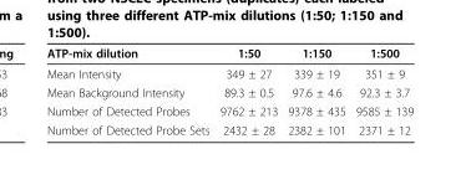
<table><thead><tr><td>ATP-mix dilution</td><td>1:50</td><td>1:150</td><td>1:500</td></tr></thead><tbody><tr><td>Mean Intensity</td><td>349 ± 27</td><td>339 ± 19</td><td>351 ± 9</td></tr><tr><td>Mean Background Intensity</td><td>89.3 ± 0.5</td><td>97.6 ± 4.6</td><td>92.3 ± 3.7</td></tr><tr><td>Number of Detected Probes</td><td>9762 ± 213</td><td>9378 ± 435</td><td>9585 ± 139</td></tr><tr><td>Number of Detected Probe Sets</td><td>2432 ± 28</td><td>2382 ± 101</td><td>2371 ± 12</td></tr></tbody></table>